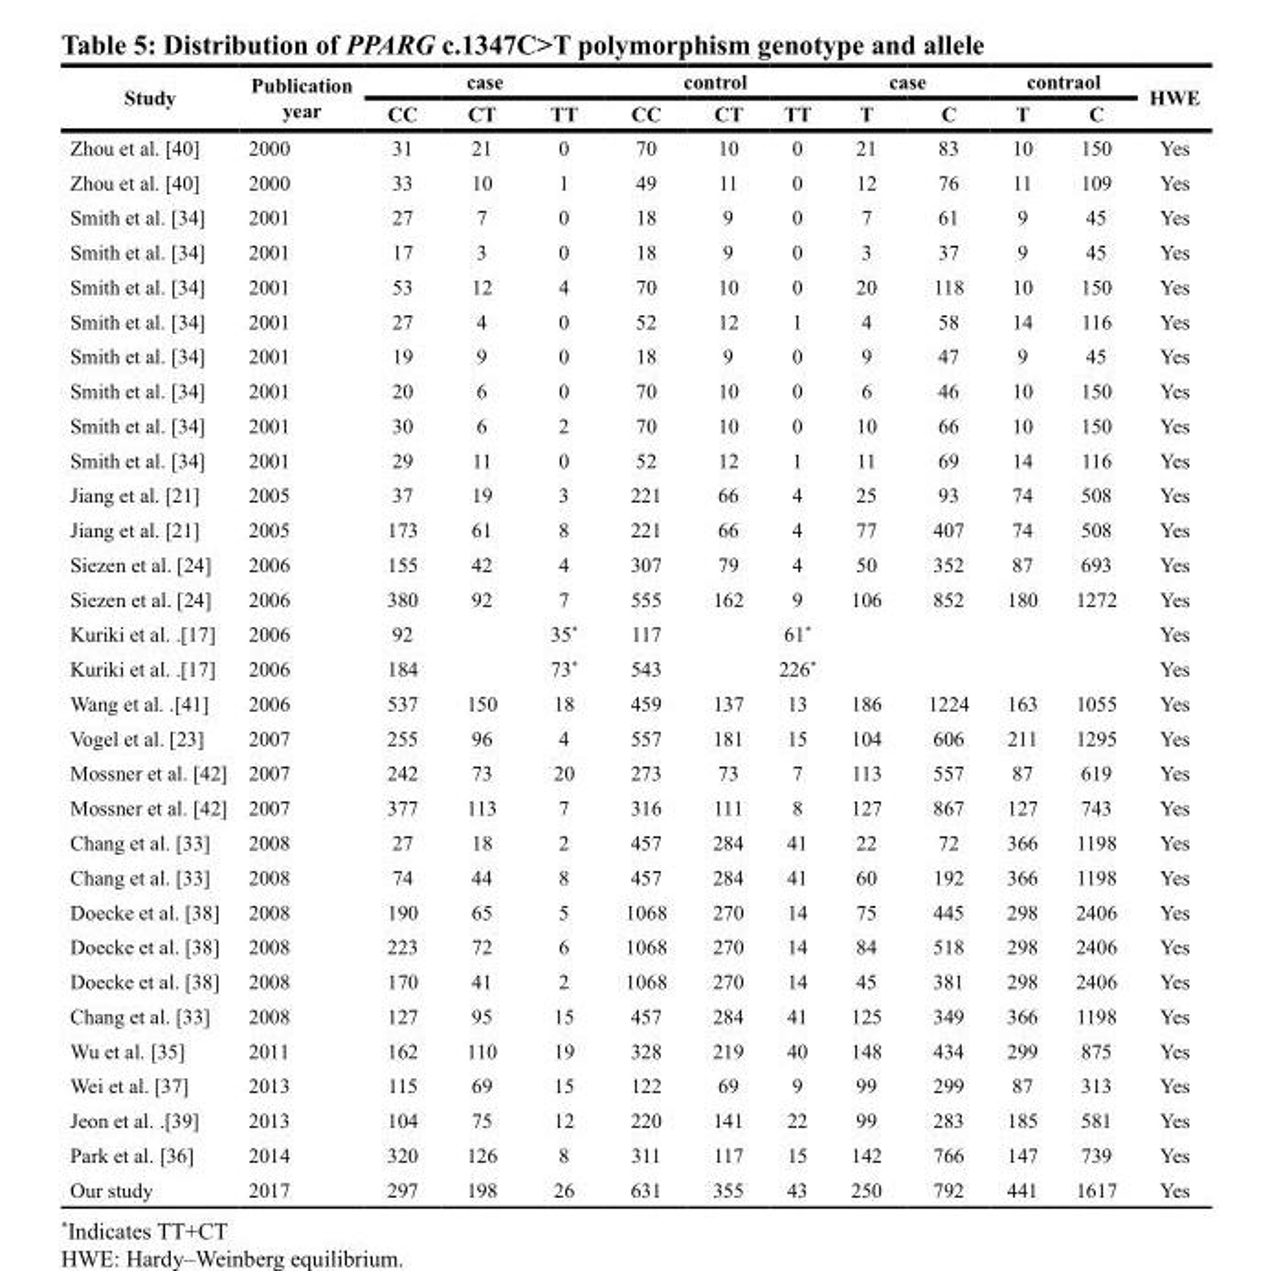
<table><thead><tr><td rowspan="2">Study</td><td rowspan="2">Publication year</td><td colspan="3">case</td><td colspan="3">control</td><td colspan="2">case</td><td colspan="2">contraol</td><td rowspan="2">HWE</td></tr><tr><td>CC</td><td>CT</td><td>TT</td><td>CC</td><td>CT</td><td>TT</td><td>T</td><td>C</td><td>T</td><td>C</td></tr></thead><tbody><tr><td>Zhou et al. [40]</td><td>2000</td><td>31</td><td>21</td><td>0</td><td>70</td><td>10</td><td>0</td><td>21</td><td>83</td><td>10</td><td>150</td><td>Yes</td></tr><tr><td>Zhou et al. [40]</td><td>2000</td><td>33</td><td>10</td><td>1</td><td>49</td><td>11</td><td>0</td><td>12</td><td>76</td><td>11</td><td>109</td><td>Yes</td></tr><tr><td>Smith et al. [34]</td><td>2001</td><td>27</td><td>7</td><td>0</td><td>18</td><td>9</td><td>0</td><td>7</td><td>61</td><td>9</td><td>45</td><td>Yes</td></tr><tr><td>Smith et al. [34]</td><td>2001</td><td>17</td><td>3</td><td>0</td><td>18</td><td>9</td><td>0</td><td>3</td><td>37</td><td>9</td><td>45</td><td>Yes</td></tr><tr><td>Smith et al. [34]</td><td>2001</td><td>53</td><td>12</td><td>4</td><td>70</td><td>10</td><td>0</td><td>20</td><td>118</td><td>10</td><td>150</td><td>Yes</td></tr><tr><td>Smith et al. [34]</td><td>2001</td><td>27</td><td>4</td><td>0</td><td>52</td><td>12</td><td>1</td><td>4</td><td>58</td><td>14</td><td>116</td><td>Yes</td></tr><tr><td>Smith et al. [34]</td><td>2001</td><td>19</td><td>9</td><td>0</td><td>18</td><td>9</td><td>0</td><td>9</td><td>47</td><td>9</td><td>45</td><td>Yes</td></tr><tr><td>Smith et al. [34]</td><td>2001</td><td>20</td><td>6</td><td>0</td><td>70</td><td>10</td><td>0</td><td>6</td><td>46</td><td>10</td><td>150</td><td>Yes</td></tr><tr><td>Smith et al. [34]</td><td>2001</td><td>30</td><td>6</td><td>2</td><td>70</td><td>10</td><td>0</td><td>10</td><td>66</td><td>10</td><td>150</td><td>Yes</td></tr><tr><td>Smith et al. [34]</td><td>2001</td><td>29</td><td>11</td><td>0</td><td>52</td><td>12</td><td>1</td><td>11</td><td>69</td><td>14</td><td>116</td><td>Yes</td></tr><tr><td>Jiang et al. [21]</td><td>2005</td><td>37</td><td>19</td><td>3</td><td>221</td><td>66</td><td>4</td><td>25</td><td>93</td><td>74</td><td>508</td><td>Yes</td></tr><tr><td>Jiang et al. [21]</td><td>2005</td><td>173</td><td>61</td><td>8</td><td>221</td><td>66</td><td>4</td><td>77</td><td>407</td><td>74</td><td>508</td><td>Yes</td></tr><tr><td>Siezen et al. [24]</td><td>2006</td><td>155</td><td>42</td><td>4</td><td>307</td><td>79</td><td>4</td><td>50</td><td>352</td><td>87</td><td>693</td><td>Yes</td></tr><tr><td>Siezen et al. [24]</td><td>2006</td><td>380</td><td>92</td><td>7</td><td>555</td><td>162</td><td>9</td><td>106</td><td>852</td><td>180</td><td>1272</td><td>Yes</td></tr><tr><td>Kuriki et al. .[17]</td><td>2006</td><td>92</td><td></td><td>35*</td><td>117</td><td></td><td>61*</td><td></td><td></td><td></td><td></td><td>Yes</td></tr><tr><td>Kuriki et al. .[17]</td><td>2006</td><td>184</td><td></td><td>73*</td><td>543</td><td></td><td>226*</td><td></td><td></td><td></td><td></td><td>Yes</td></tr><tr><td>Wang et al. .[41]</td><td>2006</td><td>537</td><td>150</td><td>18</td><td>459</td><td>137</td><td>13</td><td>186</td><td>1224</td><td>163</td><td>1055</td><td>Yes</td></tr><tr><td>Vogel et al. [23]</td><td>2007</td><td>255</td><td>96</td><td>4</td><td>557</td><td>181</td><td>15</td><td>104</td><td>606</td><td>211</td><td>1295</td><td>Yes</td></tr><tr><td>Mossner et al. [42]</td><td>2007</td><td>242</td><td>73</td><td>20</td><td>273</td><td>73</td><td>7</td><td>113</td><td>557</td><td>87</td><td>619</td><td>Yes</td></tr><tr><td>Mossner et al. [42]</td><td>2007</td><td>377</td><td>113</td><td>7</td><td>316</td><td>111</td><td>8</td><td>127</td><td>867</td><td>127</td><td>743</td><td>Yes</td></tr><tr><td>Chang et al. [33]</td><td>2008</td><td>27</td><td>18</td><td>2</td><td>457</td><td>284</td><td>41</td><td>22</td><td>72</td><td>366</td><td>1198</td><td>Yes</td></tr><tr><td>Chang et al. [33]</td><td>2008</td><td>74</td><td>44</td><td>8</td><td>457</td><td>284</td><td>41</td><td>60</td><td>192</td><td>366</td><td>1198</td><td>Yes</td></tr><tr><td>Doecke et al. [38]</td><td>2008</td><td>190</td><td>65</td><td>5</td><td>1068</td><td>270</td><td>14</td><td>75</td><td>445</td><td>298</td><td>2406</td><td>Yes</td></tr><tr><td>Doecke et al. [38]</td><td>2008</td><td>223</td><td>72</td><td>6</td><td>1068</td><td>270</td><td>14</td><td>84</td><td>518</td><td>298</td><td>2406</td><td>Yes</td></tr><tr><td>Doecke et al. [38]</td><td>2008</td><td>170</td><td>41</td><td>2</td><td>1068</td><td>270</td><td>14</td><td>45</td><td>381</td><td>298</td><td>2406</td><td>Yes</td></tr><tr><td>Chang et al. [33]</td><td>2008</td><td>127</td><td>95</td><td>15</td><td>457</td><td>284</td><td>41</td><td>125</td><td>349</td><td>366</td><td>1198</td><td>Yes</td></tr><tr><td>Wu et al. [35]</td><td>2011</td><td>162</td><td>110</td><td>19</td><td>328</td><td>219</td><td>40</td><td>148</td><td>434</td><td>299</td><td>875</td><td>Yes</td></tr><tr><td>Wei et al. [37]</td><td>2013</td><td>115</td><td>69</td><td>15</td><td>122</td><td>69</td><td>9</td><td>99</td><td>299</td><td>87</td><td>313</td><td>Yes</td></tr><tr><td>Jeon et al. .[39]</td><td>2013</td><td>104</td><td>75</td><td>12</td><td>220</td><td>141</td><td>22</td><td>99</td><td>283</td><td>185</td><td>581</td><td>Yes</td></tr><tr><td>Park et al. [36]</td><td>2014</td><td>320</td><td>126</td><td>8</td><td>311</td><td>117</td><td>15</td><td>142</td><td>766</td><td>147</td><td>739</td><td>Yes</td></tr><tr><td>Our study</td><td>2017</td><td>297</td><td>198</td><td>26</td><td>631</td><td>355</td><td>43</td><td>250</td><td>792</td><td>441</td><td>1617</td><td>Yes</td></tr></tbody></table>